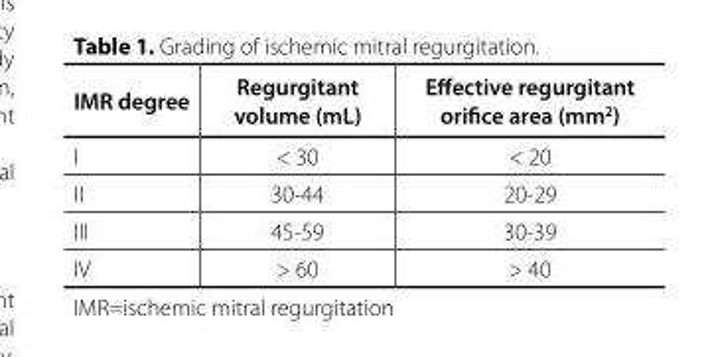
<table><thead><tr><td>IMR degree</td><td>Regurgitant volume (mL)</td><td>Effective regurgitant orifice area (mm<sup>2</sup>)</td></tr></thead><tbody><tr><td>I</td><td>&lt; 30</td><td>&lt; 20</td></tr><tr><td>II</td><td>30-44</td><td>20-29</td></tr><tr><td>III</td><td>45-59</td><td>30-39</td></tr><tr><td>IV</td><td>&gt; 60</td><td>&gt; 40</td></tr></tbody></table>